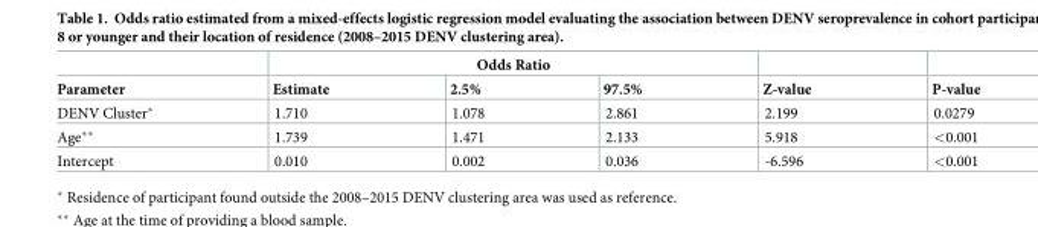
<table><thead><tr><td rowspan="2">Parameter</td><td colspan="3">Odds Ratio</td><td rowspan="2">Z-value</td><td rowspan="2">P-value</td></tr><tr><td>Estimate</td><td>2.5%</td><td>97.5%</td></tr></thead><tbody><tr><td>DENV Cluster*</td><td>1.710</td><td>1.078</td><td>2.861</td><td>2.199</td><td>0.0279</td></tr><tr><td>Age**</td><td>1.739</td><td>1.471</td><td>2.133</td><td>5.918</td><td>&lt;0.001</td></tr><tr><td>Intercept</td><td>0.010</td><td>0.002</td><td>0.036</td><td>-6.596</td><td>&lt;0.001</td></tr></tbody></table>